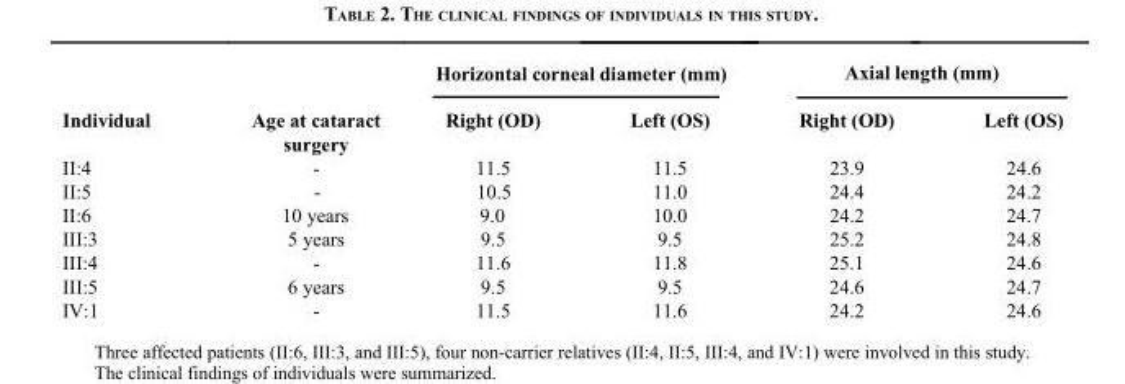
<table><thead><tr><td rowspan="2">Individual</td><td rowspan="2">Age at cataract surgery</td><td colspan="2">Horizontal corneal diameter (mm)</td><td colspan="2">Axial length (mm)</td></tr><tr><td>Right (OD)</td><td>Left (OS)</td><td>Right (OD)</td><td>Left (OS)</td></tr></thead><tbody><tr><td>II:4</td><td>-</td><td>11.5</td><td>11.5</td><td>23.9</td><td>24.6</td></tr><tr><td>II:5</td><td>-</td><td>10.5</td><td>11.0</td><td>24.4</td><td>24.2</td></tr><tr><td>II:6</td><td>10 years</td><td>9.0</td><td>10.0</td><td>24.2</td><td>24.7</td></tr><tr><td>III:3</td><td>5 years</td><td>9.5</td><td>9.5</td><td>25.2</td><td>24.8</td></tr><tr><td>III:4</td><td>-</td><td>11.6</td><td>11.8</td><td>25.1</td><td>24.6</td></tr><tr><td>III:5</td><td>6 years</td><td>9.5</td><td>9.5</td><td>24.6</td><td>24.7</td></tr><tr><td>IV:1</td><td>-</td><td>11.5</td><td>11.6</td><td>24.2</td><td>24.6</td></tr></tbody></table>